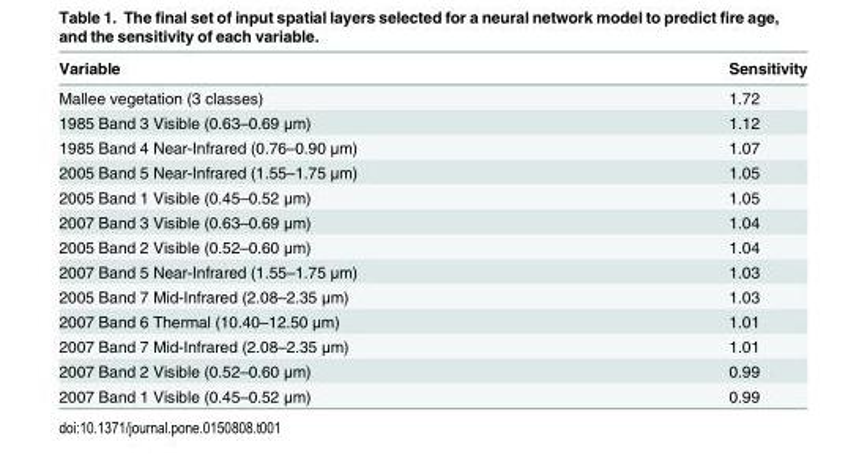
<table><thead><tr><td>Variable</td><td>Sensitivity</td></tr></thead><tbody><tr><td>Mallee vegetation (3 classes)</td><td>1.72</td></tr><tr><td>1985 Band 3 Visible (0.63–0.69 μm)</td><td>1.12</td></tr><tr><td>1985 Band 4 Near-Infrared (0.76–0.90 μm)</td><td>1.07</td></tr><tr><td>2005 Band 5 Near-Infrared (1.55–1.75 μm)</td><td>1.05</td></tr><tr><td>2005 Band 1 Visible (0.45–0.52 μm)</td><td>1.05</td></tr><tr><td>2007 Band 3 Visible (0.63–0.69 μm)</td><td>1.04</td></tr><tr><td>2005 Band 2 Visible (0.52–0.60 μm)</td><td>1.04</td></tr><tr><td>2007 Band 5 Near-Infrared (1.55–1.75 μm)</td><td>1.03</td></tr><tr><td>2005 Band 7 Mid-Infrared (2.08–2.35 μm)</td><td>1.03</td></tr><tr><td>2007 Band 6 Thermal (10.40–12.50 μm)</td><td>1.01</td></tr><tr><td>2007 Band 7 Mid-Infrared (2.08–2.35 μm)</td><td>1.01</td></tr><tr><td>2007 Band 2 Visible (0.52–0.60 μm)</td><td>0.99</td></tr><tr><td>2007 Band 1 Visible (0.45–0.52 μm)</td><td>0.99</td></tr></tbody></table>